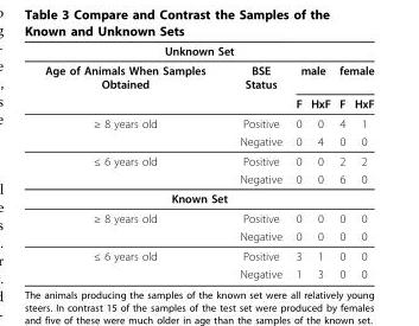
<table><thead><tr><td colspan="6">Unknown Set</td></tr><tr><td rowspan="2">Age of Animals When Samples Obtained</td><td rowspan="2">BSE Status</td><td colspan="2">male</td><td colspan="2">female</td></tr><tr><td>F</td><td>HxF</td><td>F</td><td>HxF</td></tr></thead><tbody><tr><td rowspan="2">≥ 8 years old</td><td>Positive</td><td>0</td><td>0</td><td>4</td><td>1</td></tr><tr><td>Negative</td><td>0</td><td>4</td><td>0</td><td>0</td></tr><tr><td rowspan="2">≤ 6 years old</td><td>Positive</td><td>0</td><td>0</td><td>2</td><td>2</td></tr><tr><td>Negative</td><td>0</td><td>0</td><td>6</td><td>0</td></tr><tr><td colspan="6">Known Set</td></tr><tr><td rowspan="2">≥ 8 years old</td><td>Positive</td><td>0</td><td>0</td><td>0</td><td>0</td></tr><tr><td>Negative</td><td>0</td><td>0</td><td>0</td><td>0</td></tr><tr><td rowspan="2">≤ 6 years old</td><td>Positive</td><td>3</td><td>1</td><td>0</td><td>0</td></tr><tr><td>Negative</td><td>1</td><td>3</td><td>0</td><td>0</td></tr></tbody></table>